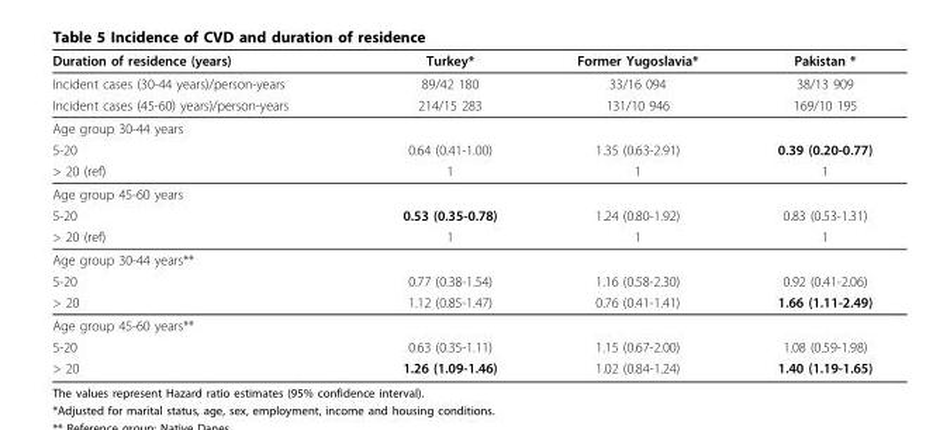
<table><thead><tr><td>Duration of residence (years)</td><td>Turkey*</td><td>Former Yugoslavia*</td><td>Pakistan *</td></tr></thead><tbody><tr><td>Incident cases (30-44 years)/person-years</td><td>89/42 180</td><td>33/16 094</td><td>38/13 909</td></tr><tr><td>Incident cases (45-60) years)/person-years</td><td>214/15 283</td><td>131/10 946</td><td>169/10 195</td></tr><tr><td colspan="4">Age group 30-44 years</td></tr><tr><td>5-20</td><td>0.64 (0.41-1.00)</td><td>1.35 (0.63-2.91)</td><td>0.39 (0.20-0.77)</td></tr><tr><td>&gt; 20 (ref)</td><td>1</td><td>1</td><td>1</td></tr><tr><td colspan="4">Age group 45-60 years</td></tr><tr><td>5-20</td><td>0.53 (0.35-0.78)</td><td>1.24 (0.80-1.92)</td><td>0.83 (0.53-1.31)</td></tr><tr><td>&gt; 20 (ref)</td><td>1</td><td>1</td><td>1</td></tr><tr><td colspan="4">Age group 30-44 years**</td></tr><tr><td>5-20</td><td>0.77 (0.38-1.54)</td><td>1.16 (0.58-2.30)</td><td>0.92 (0.41-2.06)</td></tr><tr><td>&gt; 20</td><td>1.12 (0.85-1.47)</td><td>0.76 (0.41-1.41)</td><td>1.66 (1.11-2.49)</td></tr><tr><td colspan="4">Age group 45-60 years**</td></tr><tr><td>5-20</td><td>0.63 (0.35-1.11)</td><td>1.15 (0.67-2.00)</td><td>1.08 (0.59-1.98)</td></tr><tr><td>&gt; 20</td><td>1.26 (1.09-1.46)</td><td>1.02 (0.84-1.24)</td><td>1.40 (1.19-1.65)</td></tr></tbody></table>